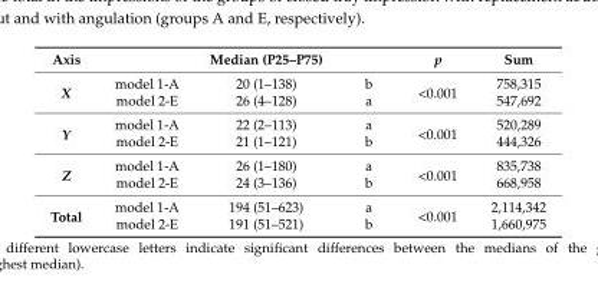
<table><thead><tr><td>Axis</td><td></td><td>Median (P25–P75)</td><td></td><td>p</td><td>Sum</td></tr></thead><tbody><tr><td rowspan="2">X</td><td>model 1-A</td><td>20 (1–138)</td><td>b</td><td rowspan="2">&lt;0.001</td><td>758,315</td></tr><tr><td>model 2-E</td><td>26 (4–128)</td><td>a</td><td>547,692</td></tr><tr><td rowspan="2">Y</td><td>model 1-A</td><td>22 (2–113)</td><td>a</td><td rowspan="2">&lt;0.001</td><td>520,289</td></tr><tr><td>model 2-E</td><td>21 (1–121)</td><td>b</td><td>444,326</td></tr><tr><td rowspan="2">Z</td><td>model 1-A</td><td>26 (1–180)</td><td>a</td><td rowspan="2">&lt;0.001</td><td>835,738</td></tr><tr><td>model 2-E</td><td>24 (3–136)</td><td>b</td><td>668,958</td></tr><tr><td rowspan="2">Total</td><td>model 1-A</td><td>194 (51–623)</td><td>a</td><td rowspan="2">&lt;0.001</td><td>2,114,342</td></tr><tr><td>model 2-E</td><td>191 (51–521)</td><td>b</td><td>1,660,975</td></tr></tbody></table>